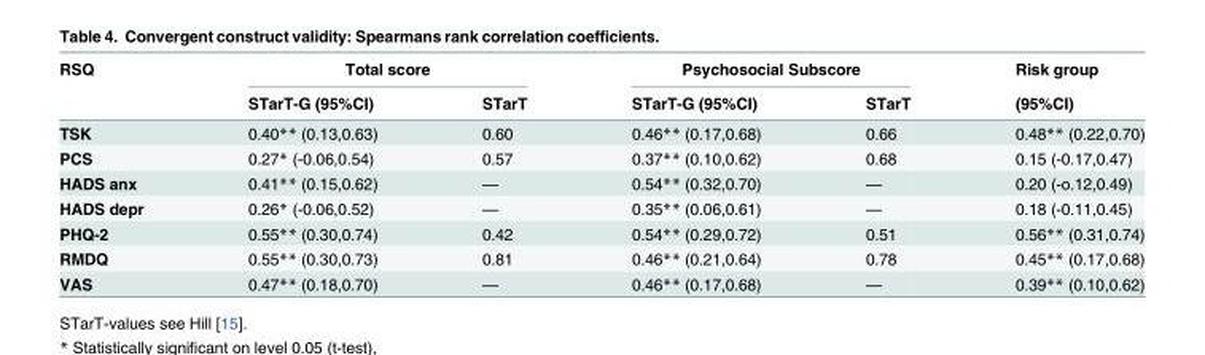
<table><thead><tr><td rowspan="2">RSQ</td><td colspan="2">Total score</td><td colspan="2">Psychosocial Subscore</td><td rowspan="2">Risk group (95%CI)</td></tr><tr><td>STarT-G (95%CI)</td><td>STarT</td><td>STarT-G (95%CI)</td><td>STarT</td></tr></thead><tbody><tr><td>TSK</td><td>0.40** (0.13,0.63)</td><td>0.60</td><td>0.46** (0.17,0.68)</td><td>0.66</td><td>0.48** (0.22,0.70)</td></tr><tr><td>PCS</td><td>0.27* (-0.06,0.54)</td><td>0.57</td><td>0.37** (0.10,0.62)</td><td>0.68</td><td>0.15 (-0.17,0.47)</td></tr><tr><td>HADS anx</td><td>0.41** (0.15,0.62)</td><td>—</td><td>0.54** (0.32,0.70)</td><td>—</td><td>0.20 (-o.12,0.49)</td></tr><tr><td>HADS depr</td><td>0.26* (-0.06,0.52)</td><td>—</td><td>0.35** (0.06,0.61)</td><td>—</td><td>0.18 (-0.11,0.45)</td></tr><tr><td>PHQ-2</td><td>0.55** (0.30,0.74)</td><td>0.42</td><td>0.54** (0.29,0.72)</td><td>0.51</td><td>0.56** (0.31,0.74)</td></tr><tr><td>RMDQ</td><td>0.55** (0.30,0.73)</td><td>0.81</td><td>0.46** (0.21,0.64)</td><td>0.78</td><td>0.45** (0.17,0.68)</td></tr><tr><td>VAS</td><td>0.47** (0.18,0.70)</td><td>—</td><td>0.46** (0.17,0.68)</td><td>—</td><td>0.39** (0.10,0.62)</td></tr></tbody></table>